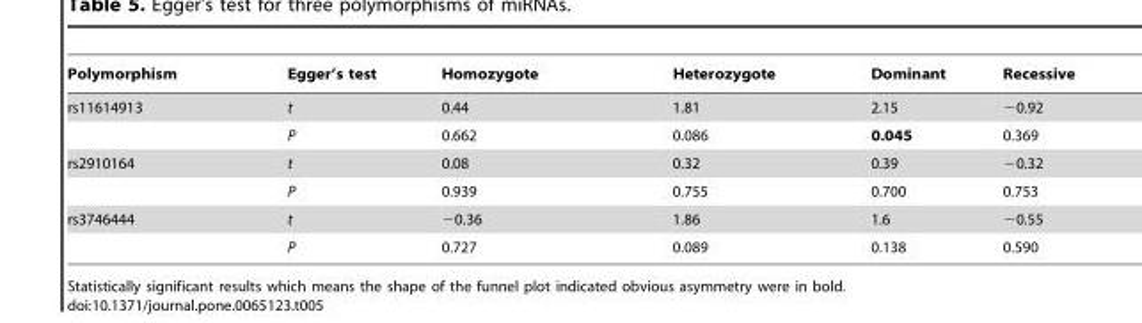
<table><thead><tr><td>Polymorphism</td><td>Egger’s test</td><td>Homozygote</td><td>Heterozygote</td><td>Dominant</td><td>Recessive</td></tr></thead><tbody><tr><td rowspan="2">rs11614913</td><td>t</td><td>0.44</td><td>1.81</td><td>2.15</td><td>−0.92</td></tr><tr><td>P</td><td>0.662</td><td>0.086</td><td>0.045</td><td>0.369</td></tr><tr><td rowspan="2">rs2910164</td><td>t</td><td>0.08</td><td>0.32</td><td>0.39</td><td>−0.32</td></tr><tr><td>P</td><td>0.939</td><td>0.755</td><td>0.700</td><td>0.753</td></tr><tr><td rowspan="2">rs3746444</td><td>t</td><td>−0.36</td><td>1.86</td><td>1.6</td><td>−0.55</td></tr><tr><td>P</td><td>0.727</td><td>0.089</td><td>0.138</td><td>0.590</td></tr></tbody></table>